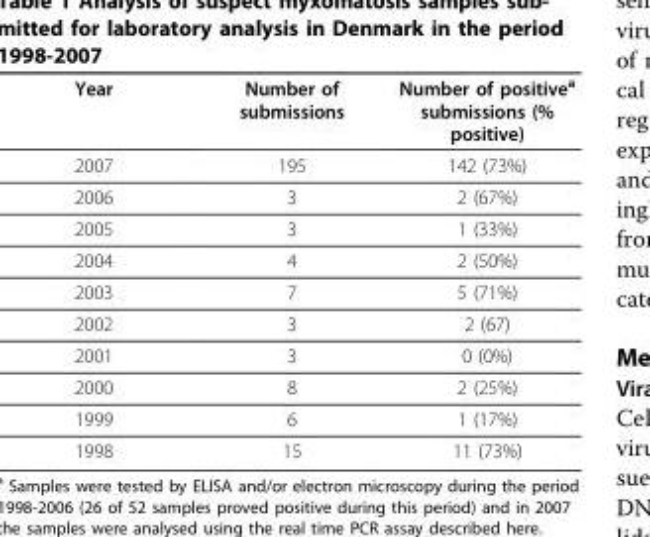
<table><thead><tr><td>Year</td><td>Number of submissions</td><td>Number of positive<sup>a</sup> submissions (% positive)</td></tr></thead><tbody><tr><td>2007</td><td>195</td><td>142 (73%)</td></tr><tr><td>2006</td><td>3</td><td>2 (67%)</td></tr><tr><td>2005</td><td>3</td><td>1 (33%)</td></tr><tr><td>2004</td><td>4</td><td>2 (50%)</td></tr><tr><td>2003</td><td>7</td><td>5 (71%)</td></tr><tr><td>2002</td><td>3</td><td>2 (67)</td></tr><tr><td>2001</td><td>3</td><td>0 (0%)</td></tr><tr><td>2000</td><td>8</td><td>2 (25%)</td></tr><tr><td>1999</td><td>6</td><td>1 (17%)</td></tr><tr><td>1998</td><td>15</td><td>11 (73%)</td></tr></tbody></table>